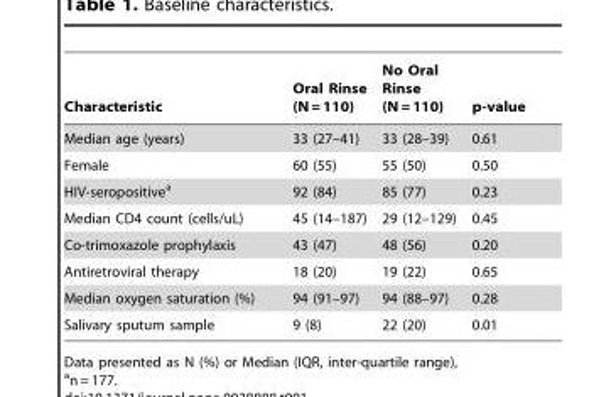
<table><thead><tr><td>Characteristic</td><td>Oral Rinse (N = 110)</td><td>No Oral Rinse (N = 110)</td><td>p-value</td></tr></thead><tbody><tr><td>Median age (years)</td><td>33 (27–41)</td><td>33 (28–39)</td><td>0.61</td></tr><tr><td>Female</td><td>60 (55)</td><td>55 (50)</td><td>0.50</td></tr><tr><td>HIV-seropositive<sup>a</sup></td><td>92 (84)</td><td>85 (77)</td><td>0.23</td></tr><tr><td>Median CD4 count (cells/uL)</td><td>45 (14–187)</td><td>29 (12–129)</td><td>0.45</td></tr><tr><td>Co-trimoxazole prophylaxis</td><td>43 (47)</td><td>48 (56)</td><td>0.20</td></tr><tr><td>Antiretroviral therapy</td><td>18 (20)</td><td>19 (22)</td><td>0.65</td></tr><tr><td>Median oxygen saturation (%)</td><td>94 (91–97)</td><td>94 (88–97)</td><td>0.28</td></tr><tr><td>Salivary sputum sample</td><td>9 (8)</td><td>22 (20)</td><td>0.01</td></tr></tbody></table>